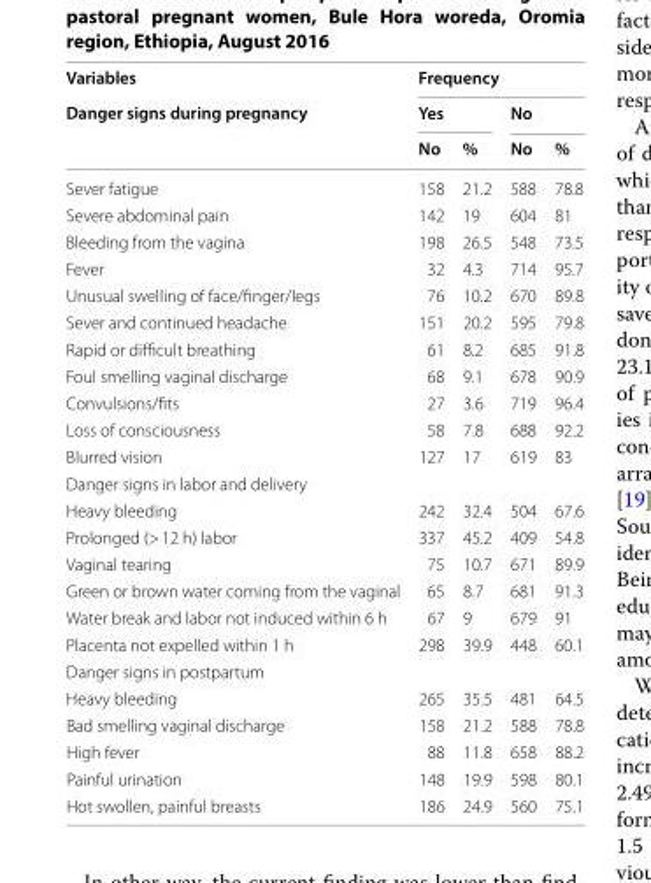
<table><thead><tr><td rowspan="3">Variables Danger signs during pregnancy</td><td colspan="4">Frequency</td></tr><tr><td colspan="2">Yes</td><td colspan="2">No</td></tr><tr><td>No</td><td>%</td><td>No</td><td>%</td></tr></thead><tbody><tr><td>Sever fatigue</td><td>158</td><td>21.2</td><td>588</td><td>78.8</td></tr><tr><td>Severe abdominal pain</td><td>142</td><td>19</td><td>604</td><td>81</td></tr><tr><td>Bleeding from the vagina</td><td>198</td><td>26.5</td><td>548</td><td>73.5</td></tr><tr><td>Fever</td><td>32</td><td>4.3</td><td>714</td><td>95.7</td></tr><tr><td>Unusual swelling of face/finger/legs</td><td>76</td><td>10.2</td><td>670</td><td>89.8</td></tr><tr><td>Sever and continued headache</td><td>151</td><td>20.2</td><td>595</td><td>79.8</td></tr><tr><td>Rapid or difficult breathing</td><td>61</td><td>8.2</td><td>685</td><td>91.8</td></tr><tr><td>Foul smelling vaginal discharge</td><td>68</td><td>9.1</td><td>678</td><td>90.9</td></tr><tr><td>Convulsions/fits</td><td>27</td><td>3.6</td><td>719</td><td>96.4</td></tr><tr><td>Loss of consciousness</td><td>58</td><td>7.8</td><td>688</td><td>92.2</td></tr><tr><td>Blurred vision</td><td>127</td><td>17</td><td>619</td><td>83</td></tr><tr><td colspan="5">Danger signs in labor and delivery</td></tr><tr><td>Heavy bleeding</td><td>242</td><td>32.4</td><td>504</td><td>67.6</td></tr><tr><td>Prolonged (&gt; 12 h) labor</td><td>337</td><td>45.2</td><td>409</td><td>54.8</td></tr><tr><td>Vaginal tearing</td><td>75</td><td>10.7</td><td>671</td><td>89.9</td></tr><tr><td>Green or brown water coming from the vaginal</td><td>65</td><td>8.7</td><td>681</td><td>91.3</td></tr><tr><td>Water break and labor not induced within 6 h</td><td>67</td><td>9</td><td>679</td><td>91</td></tr><tr><td>Placenta not expelled within 1 h</td><td>298</td><td>39.9</td><td>448</td><td>60.1</td></tr><tr><td colspan="5">Danger signs in postpartum</td></tr><tr><td>Heavy bleeding</td><td>265</td><td>35.5</td><td>481</td><td>64.5</td></tr><tr><td>Bad smelling vaginal discharge</td><td>158</td><td>21.2</td><td>588</td><td>78.8</td></tr><tr><td>High fever</td><td>88</td><td>11.8</td><td>658</td><td>88.2</td></tr><tr><td>Painful urination</td><td>148</td><td>19.9</td><td>598</td><td>80.1</td></tr><tr><td>Hot swollen, painful breasts</td><td>186</td><td>24.9</td><td>560</td><td>75.1</td></tr></tbody></table>